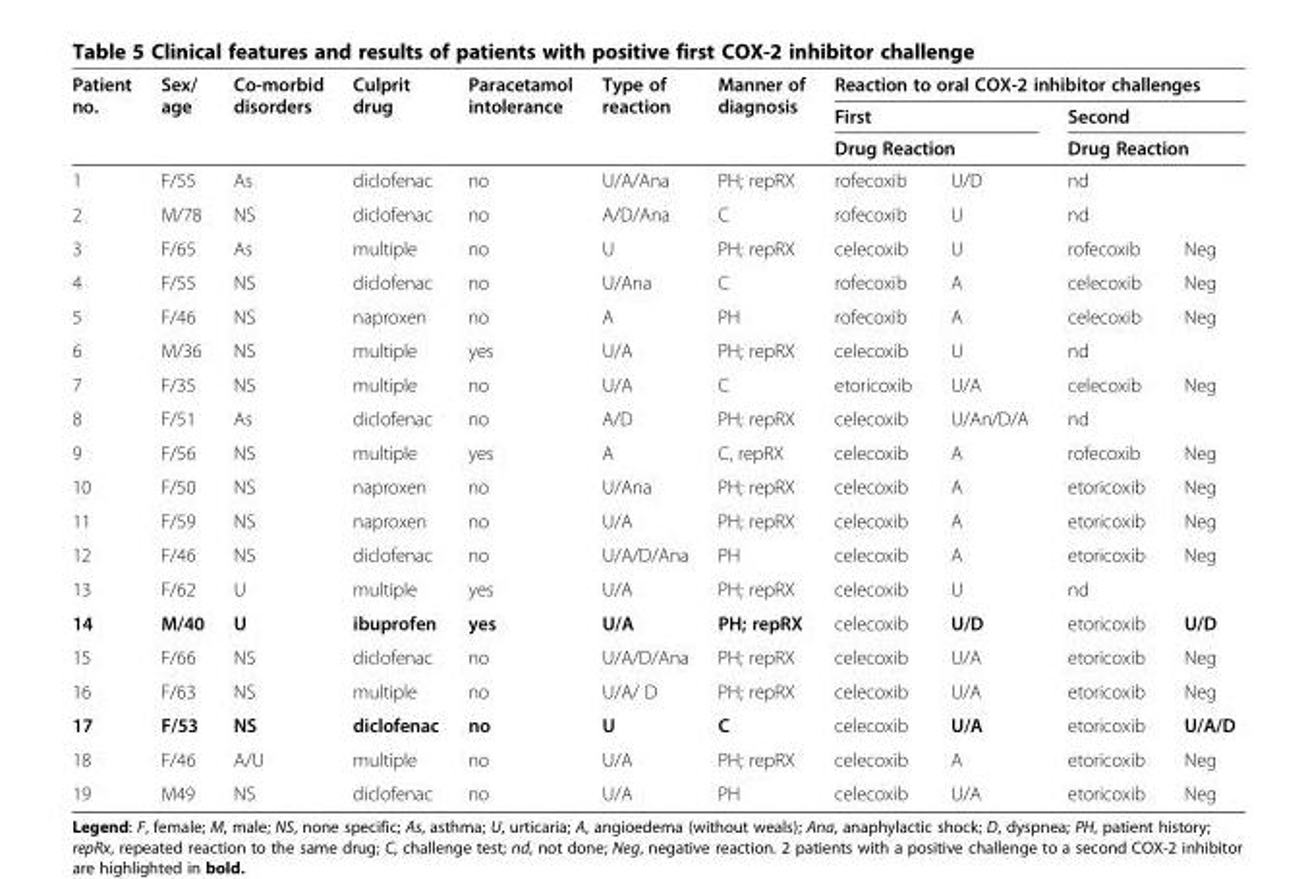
<table><thead><tr><td rowspan="4">Patient no. 1</td><td rowspan="4">Sex/ age F/55</td><td rowspan="4">Co-morbid disorders As</td><td rowspan="4">Culprit drug diclofenac</td><td rowspan="4">Paracetamol intolerance no</td><td rowspan="4">Type of reaction U/A/Ana</td><td rowspan="4">Manner of diagnosis PH; repRX</td><td colspan="4">Reaction to oral COX-2 inhibitor challenges</td></tr><tr><td rowspan="2" colspan="2">First Drug Reaction</td><td rowspan="2" colspan="2">Second Drug Reaction</td></tr><tr></tr><tr><td>rofecoxib</td><td>U/D</td><td>nd</td><td></td></tr></thead><tbody><tr><td>2</td><td>M/78</td><td>NS</td><td>diclofenac</td><td>no</td><td>A/D/Ana</td><td>C</td><td>rofecoxib</td><td>U</td><td>nd</td><td></td></tr><tr><td>3</td><td>F/65</td><td>As</td><td>multiple</td><td>no</td><td>U</td><td>PH; repRX</td><td>celecoxib</td><td>U</td><td>rofecoxib</td><td>Neg</td></tr><tr><td>4</td><td>F/55</td><td>NS</td><td>diclofenac</td><td>no</td><td>U/Ana</td><td>C</td><td>rofecoxib</td><td>A</td><td>celecoxib</td><td>Neg</td></tr><tr><td>5</td><td>F/46</td><td>NS</td><td>naproxen</td><td>no</td><td>A</td><td>PH</td><td>rofecoxib</td><td>A</td><td>celecoxib</td><td>Neg</td></tr><tr><td>6</td><td>M/36</td><td>NS</td><td>multiple</td><td>yes</td><td>U/A</td><td>PH; repRX</td><td>celecoxib</td><td>U</td><td>nd</td><td></td></tr><tr><td>7</td><td>F/35</td><td>NS</td><td>multiple</td><td>no</td><td>U/A</td><td>C</td><td>etoricoxib</td><td>U/A</td><td>celecoxib</td><td>Neg</td></tr><tr><td>8</td><td>F/51</td><td>As</td><td>diclofenac</td><td>no</td><td>A/D</td><td>PH; repRX</td><td>celecoxib</td><td>U/An/D/A</td><td>nd</td><td></td></tr><tr><td>9</td><td>F/56</td><td>NS</td><td>multiple</td><td>yes</td><td>A</td><td>C, repRX</td><td>celecoxib</td><td>A</td><td>rofecoxib</td><td>Neg</td></tr><tr><td>10</td><td>F/50</td><td>NS</td><td>naproxen</td><td>no</td><td>U/Ana</td><td>PH; repRX</td><td>celecoxib</td><td>A</td><td>etoricoxib</td><td>Neg</td></tr><tr><td>11</td><td>F/59</td><td>NS</td><td>naproxen</td><td>no</td><td>U/A</td><td>PH; repRX</td><td>celecoxib</td><td>A</td><td>etoricoxib</td><td>Neg</td></tr><tr><td>12</td><td>F/46</td><td>NS</td><td>diclofenac</td><td>no</td><td>U/A/D/Ana</td><td>PH</td><td>celecoxib</td><td>A</td><td>etoricoxib</td><td>Neg</td></tr><tr><td>13</td><td>F/62</td><td>U</td><td>multiple</td><td>yes</td><td>U/A</td><td>PH; repRX</td><td>celecoxib</td><td>U</td><td>nd</td><td></td></tr><tr><td>14</td><td>M/40</td><td>U</td><td>ibuprofen</td><td>yes</td><td>U/A</td><td>PH; repRX</td><td>celecoxib</td><td>U/D</td><td>etoricoxib</td><td>U/D</td></tr><tr><td>15</td><td>F/66</td><td>NS</td><td>diclofenac</td><td>no</td><td>U/A/D/Ana</td><td>PH; repRX</td><td>celecoxib</td><td>U/A</td><td>etoricoxib</td><td>Neg</td></tr><tr><td>16</td><td>F/63</td><td>NS</td><td>multiple</td><td>no</td><td>U/A/ D</td><td>PH; repRX</td><td>celecoxib</td><td>U/A</td><td>etoricoxib</td><td>Neg</td></tr><tr><td>17</td><td>F/53</td><td>NS</td><td>diclofenac</td><td>no</td><td>U</td><td>C</td><td>celecoxib</td><td>U/A</td><td>etoricoxib</td><td>U/A/D</td></tr><tr><td>18</td><td>F/46</td><td>A/U</td><td>multiple</td><td>no</td><td>U/A</td><td>PH; repRX</td><td>celecoxib</td><td>A</td><td>etoricoxib</td><td>Neg</td></tr><tr><td>19</td><td>M49</td><td>NS</td><td>diclofenac</td><td>no</td><td>U/A</td><td>PH</td><td>celecoxib</td><td>U/A</td><td>etoricoxib</td><td>Neg</td></tr></tbody></table>